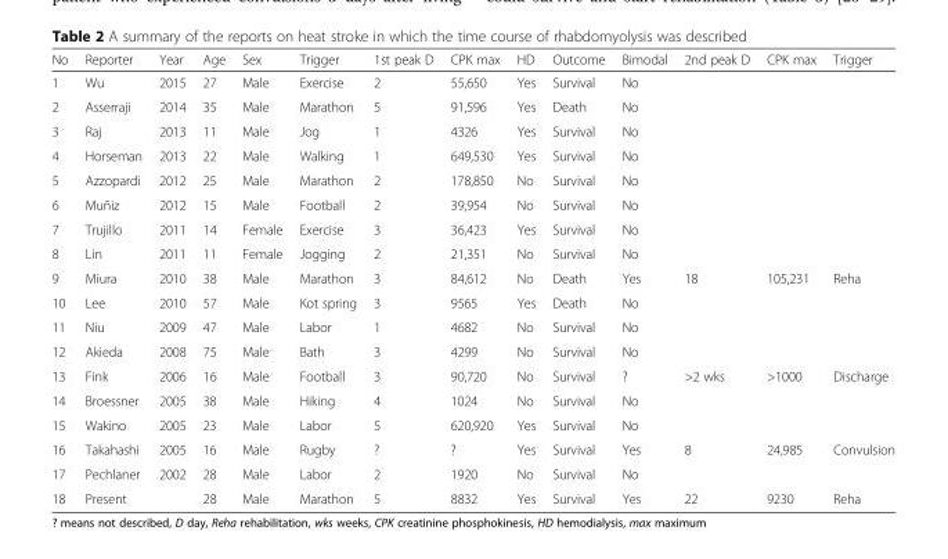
<table><thead><tr><td>No</td><td>Reporter</td><td>Year</td><td>Age</td><td>Sex</td><td>Trigger</td><td>1st peak D</td><td>CPK max</td><td>HD</td><td>Outcome</td><td>Bimodal</td><td>2nd peak D</td><td>CPK max</td><td>Trigger</td></tr></thead><tbody><tr><td>1</td><td>Wu</td><td>2015</td><td>27</td><td>Male</td><td>Exercise</td><td>2</td><td>55,650</td><td>Yes</td><td>Survival</td><td>No</td><td></td><td></td><td></td></tr><tr><td>2</td><td>Asserraji</td><td>2014</td><td>35</td><td>Male</td><td>Marathon</td><td>5</td><td>91,596</td><td>Yes</td><td>Death</td><td>No</td><td></td><td></td><td></td></tr><tr><td>3</td><td>Raj</td><td>2013</td><td>11</td><td>Male</td><td>Jog</td><td>1</td><td>4326</td><td>Yes</td><td>Survival</td><td>No</td><td></td><td></td><td></td></tr><tr><td>4</td><td>Horseman</td><td>2013</td><td>22</td><td>Male</td><td>Walking</td><td>1</td><td>649,530</td><td>Yes</td><td>Survival</td><td>No</td><td></td><td></td><td></td></tr><tr><td>5</td><td>Azzopardi</td><td>2012</td><td>25</td><td>Male</td><td>Marathon</td><td>2</td><td>178,850</td><td>No</td><td>Survival</td><td>No</td><td></td><td></td><td></td></tr><tr><td>6</td><td>Muñiz</td><td>2012</td><td>15</td><td>Male</td><td>Football</td><td>2</td><td>39,954</td><td>No</td><td>Survival</td><td>No</td><td></td><td></td><td></td></tr><tr><td>7</td><td>Trujillo</td><td>2011</td><td>14</td><td>Female</td><td>Exercise</td><td>3</td><td>36,423</td><td>Yes</td><td>Survival</td><td>No</td><td></td><td></td><td></td></tr><tr><td>8</td><td>Lin</td><td>2011</td><td>11</td><td>Female</td><td>Jogging</td><td>2</td><td>21,351</td><td>No</td><td>Survival</td><td>No</td><td></td><td></td><td></td></tr><tr><td>9</td><td>Miura</td><td>2010</td><td>38</td><td>Male</td><td>Marathon</td><td>3</td><td>84,612</td><td>No</td><td>Death</td><td>Yes</td><td>18</td><td>105,231</td><td>Reha</td></tr><tr><td>10</td><td>Lee</td><td>2010</td><td>57</td><td>Male</td><td>Kot spring</td><td>3</td><td>9565</td><td>Yes</td><td>Death</td><td>No</td><td></td><td></td><td></td></tr><tr><td>11</td><td>Niu</td><td>2009</td><td>47</td><td>Male</td><td>Labor</td><td>1</td><td>4682</td><td>No</td><td>Survival</td><td>No</td><td></td><td></td><td></td></tr><tr><td>12</td><td>Akieda</td><td>2008</td><td>75</td><td>Male</td><td>Bath</td><td>3</td><td>4299</td><td>No</td><td>Survival</td><td>No</td><td></td><td></td><td></td></tr><tr><td>13</td><td>Fink</td><td>2006</td><td>16</td><td>Male</td><td>Football</td><td>3</td><td>90,720</td><td>No</td><td>Survival</td><td>?</td><td>&gt;2 wks</td><td>&gt;1000</td><td>Discharge</td></tr><tr><td>14</td><td>Broessner</td><td>2005</td><td>38</td><td>Male</td><td>Hiking</td><td>4</td><td>1024</td><td>No</td><td>Survival</td><td>No</td><td></td><td></td><td></td></tr><tr><td>15</td><td>Wakino</td><td>2005</td><td>23</td><td>Male</td><td>Labor</td><td>5</td><td>620,920</td><td>Yes</td><td>Survival</td><td>No</td><td></td><td></td><td></td></tr><tr><td>16</td><td>Takahashi</td><td>2005</td><td>16</td><td>Male</td><td>Rugby</td><td>?</td><td>?</td><td>Yes</td><td>Survival</td><td>Yes</td><td>8</td><td>24,985</td><td>Convulsion</td></tr><tr><td>17</td><td>Pechlaner</td><td>2002</td><td>28</td><td>Male</td><td>Labor</td><td>2</td><td>1920</td><td>No</td><td>Survival</td><td>No</td><td></td><td></td><td></td></tr><tr><td>18</td><td>Present</td><td></td><td>28</td><td>Male</td><td>Marathon</td><td>5</td><td>8832</td><td>Yes</td><td>Survival</td><td>Yes</td><td>22</td><td>9230</td><td>Reha</td></tr></tbody></table>